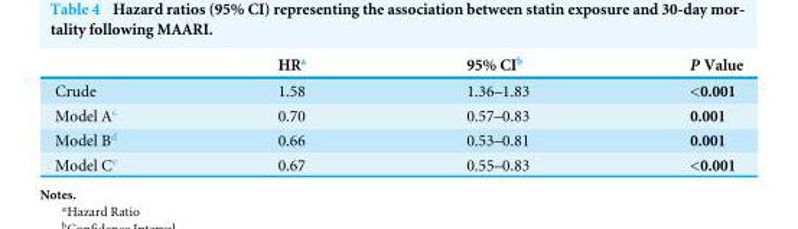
<table><thead><tr><td></td><td>HR<sup>a</sup></td><td>95% CI<sup>b</sup></td><td>P Value</td></tr></thead><tbody><tr><td>Crude</td><td>1.58</td><td>1.36–1.83</td><td>&lt;0.001</td></tr><tr><td>Model A<sup>c</sup></td><td>0.70</td><td>0.57–0.83</td><td>0.001</td></tr><tr><td>Model B<sup>d</sup></td><td>0.66</td><td>0.53–0.81</td><td>0.001</td></tr><tr><td>Model C<sup>e</sup></td><td>0.67</td><td>0.55–0.83</td><td>&lt;0.001</td></tr></tbody></table>